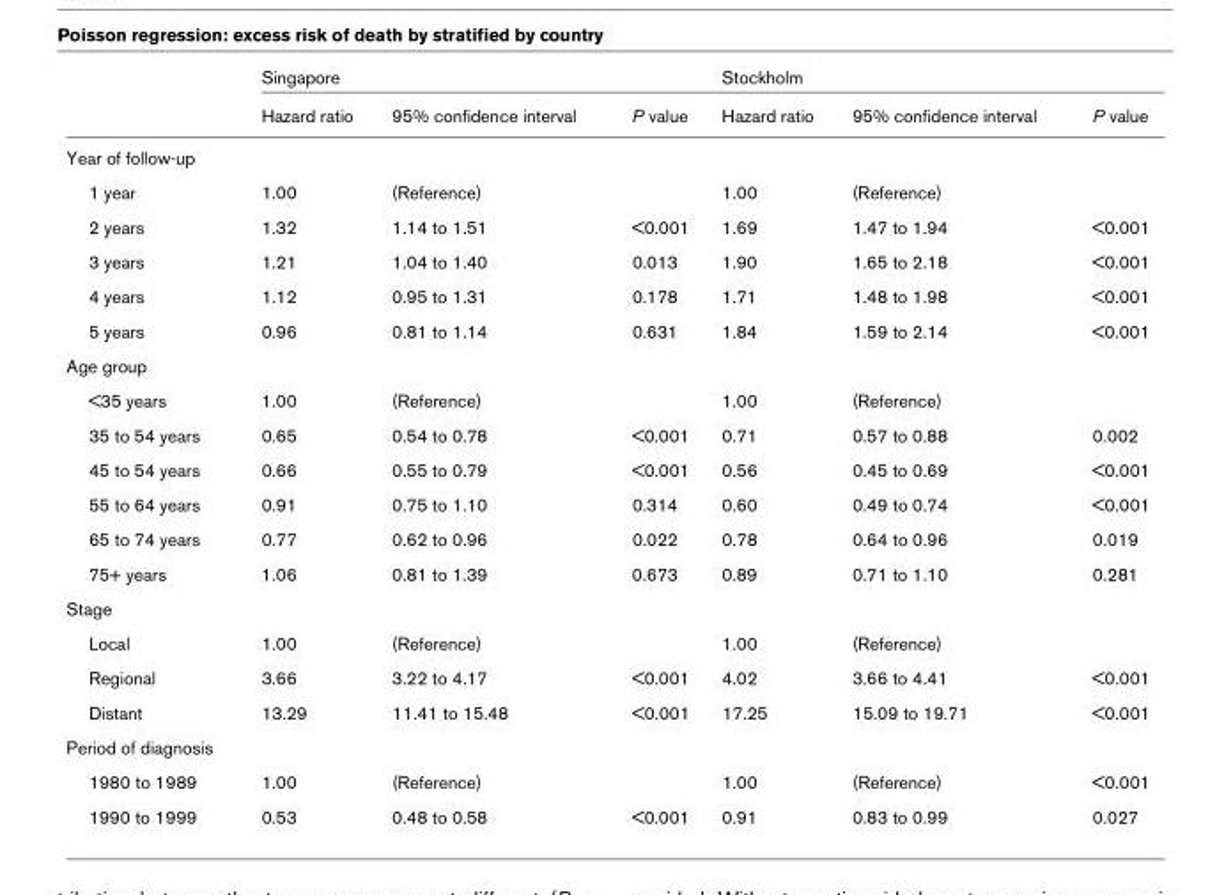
<table><thead><tr><td rowspan="2"></td><td colspan="3">Singapore</td><td colspan="3">Stockholm</td></tr><tr><td>Hazard ratio</td><td>95% confidence interval</td><td>P value</td><td>Hazard ratio</td><td>95% confidence interval</td><td>P value</td></tr></thead><tbody><tr><td colspan="7">Year of follow-up</td></tr><tr><td>1 year</td><td>1.00</td><td>(Reference)</td><td></td><td>1.00</td><td>(Reference)</td><td></td></tr><tr><td>2 years</td><td>1.32</td><td>1.14 to 1.51</td><td>&lt;0.001</td><td>1.69</td><td>1.47 to 1.94</td><td>&lt;0.001</td></tr><tr><td>3 years</td><td>1.21</td><td>1.04 to 1.40</td><td>0.013</td><td>1.90</td><td>1.65 to 2.18</td><td>&lt;0.001</td></tr><tr><td>4 years</td><td>1.12</td><td>0.95 to 1.31</td><td>0.178</td><td>1.71</td><td>1.48 to 1.98</td><td>&lt;0.001</td></tr><tr><td>5 years</td><td>0.96</td><td>0.81 to 1.14</td><td>0.631</td><td>1.84</td><td>1.59 to 2.14</td><td>&lt;0.001</td></tr><tr><td colspan="7">Age group</td></tr><tr><td>&lt;35 years</td><td>1.00</td><td>(Reference)</td><td></td><td>1.00</td><td>(Reference)</td><td></td></tr><tr><td>35 to 54 years</td><td>0.65</td><td>0.54 to 0.78</td><td>&lt;0.001</td><td>0.71</td><td>0.57 to 0.88</td><td>0.002</td></tr><tr><td>45 to 54 years</td><td>0.66</td><td>0.55 to 0.79</td><td>&lt;0.001</td><td>0.56</td><td>0.45 to 0.69</td><td>&lt;0.001</td></tr><tr><td>55 to 64 years</td><td>0.91</td><td>0.75 to 1.10</td><td>0.314</td><td>0.60</td><td>0.49 to 0.74</td><td>&lt;0.001</td></tr><tr><td>65 to 74 years</td><td>0.77</td><td>0.62 to 0.96</td><td>0.022</td><td>0.78</td><td>0.64 to 0.96</td><td>0.019</td></tr><tr><td>75+ years</td><td>1.06</td><td>0.81 to 1.39</td><td>0.673</td><td>0.89</td><td>0.71 to 1.10</td><td>0.281</td></tr><tr><td colspan="7">Stage</td></tr><tr><td>Local</td><td>1.00</td><td>(Reference)</td><td></td><td>1.00</td><td>(Reference)</td><td></td></tr><tr><td>Regional</td><td>3.66</td><td>3.22 to 4.17</td><td>&lt;0.001</td><td>4.02</td><td>3.66 to 4.41</td><td>&lt;0.001</td></tr><tr><td>Distant</td><td>13.29</td><td>11.41 to 15.48</td><td>&lt;0.001</td><td>17.25</td><td>15.09 to 19.71</td><td>&lt;0.001</td></tr><tr><td colspan="7">Period of diagnosis</td></tr><tr><td>1980 to 1989</td><td>1.00</td><td>(Reference)</td><td></td><td>1.00</td><td>(Reference)</td><td>&lt;0.001</td></tr><tr><td>1990 to 1999</td><td>0.53</td><td>0.48 to 0.58</td><td>&lt;0.001</td><td>0.91</td><td>0.83 to 0.99</td><td>0.027</td></tr></tbody></table>